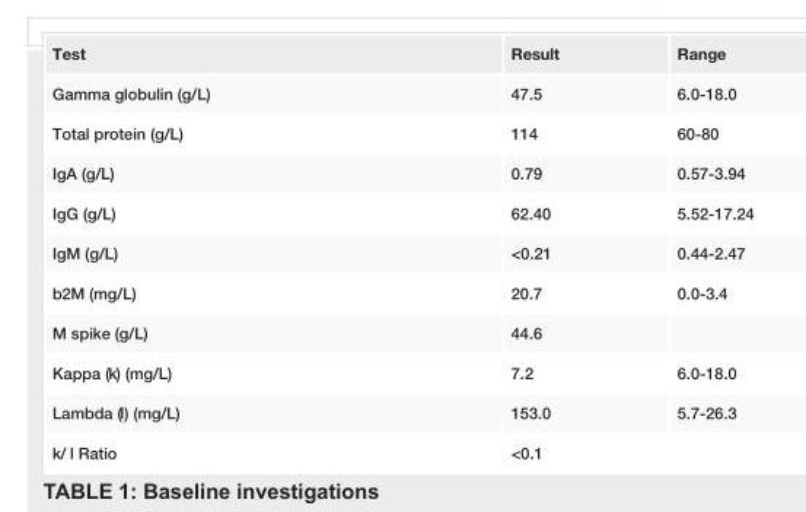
<table><tbody><tr><td>Test</td><td>Result</td><td>Range</td></tr><tr><td>Gamma globulin (g/L)</td><td>47.5</td><td>6.0-18.0</td></tr><tr><td>Total protein (g/L)</td><td>114</td><td>60-80</td></tr><tr><td>IgA (g/L)</td><td>0.79</td><td>0.57-3.94</td></tr><tr><td>IgG (g/L)</td><td>62.40</td><td>5.52-17.24</td></tr><tr><td>IgM (g/L)</td><td>&lt;0.21</td><td>0.44-2.47</td></tr><tr><td>b2M (mg/L)</td><td>20.7</td><td>0.0-3.4</td></tr><tr><td>M spike (g/L)</td><td>44.6</td><td></td></tr><tr><td>Kappa (k) (mg/L)</td><td>7.2</td><td>6.0-18.0</td></tr><tr><td>Lambda (l) (mg/L)</td><td>153.0</td><td>5.7-26.3</td></tr><tr><td>k/ l Ratio</td><td>&lt;0.1</td><td></td></tr></tbody></table>